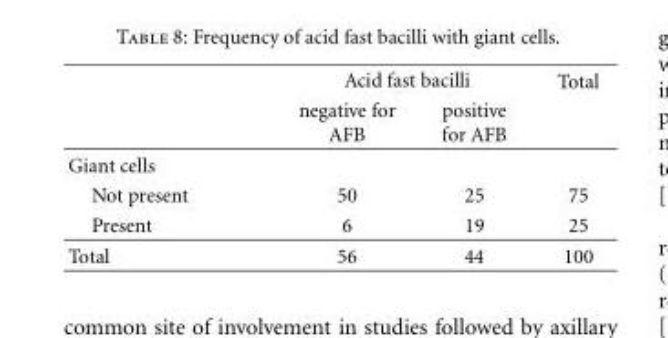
<table><thead><tr><td rowspan="2"></td><td colspan="2">Acid fast bacilli</td><td rowspan="2">Total</td></tr><tr><td>negative for AFB</td><td>positive for AFB</td></tr></thead><tbody><tr><td colspan="4">Giant cells</td></tr><tr><td>Not present</td><td>50</td><td>25</td><td>75</td></tr><tr><td>Present</td><td>6</td><td>19</td><td>25</td></tr><tr><td>Total</td><td>56</td><td>44</td><td>100</td></tr></tbody></table>